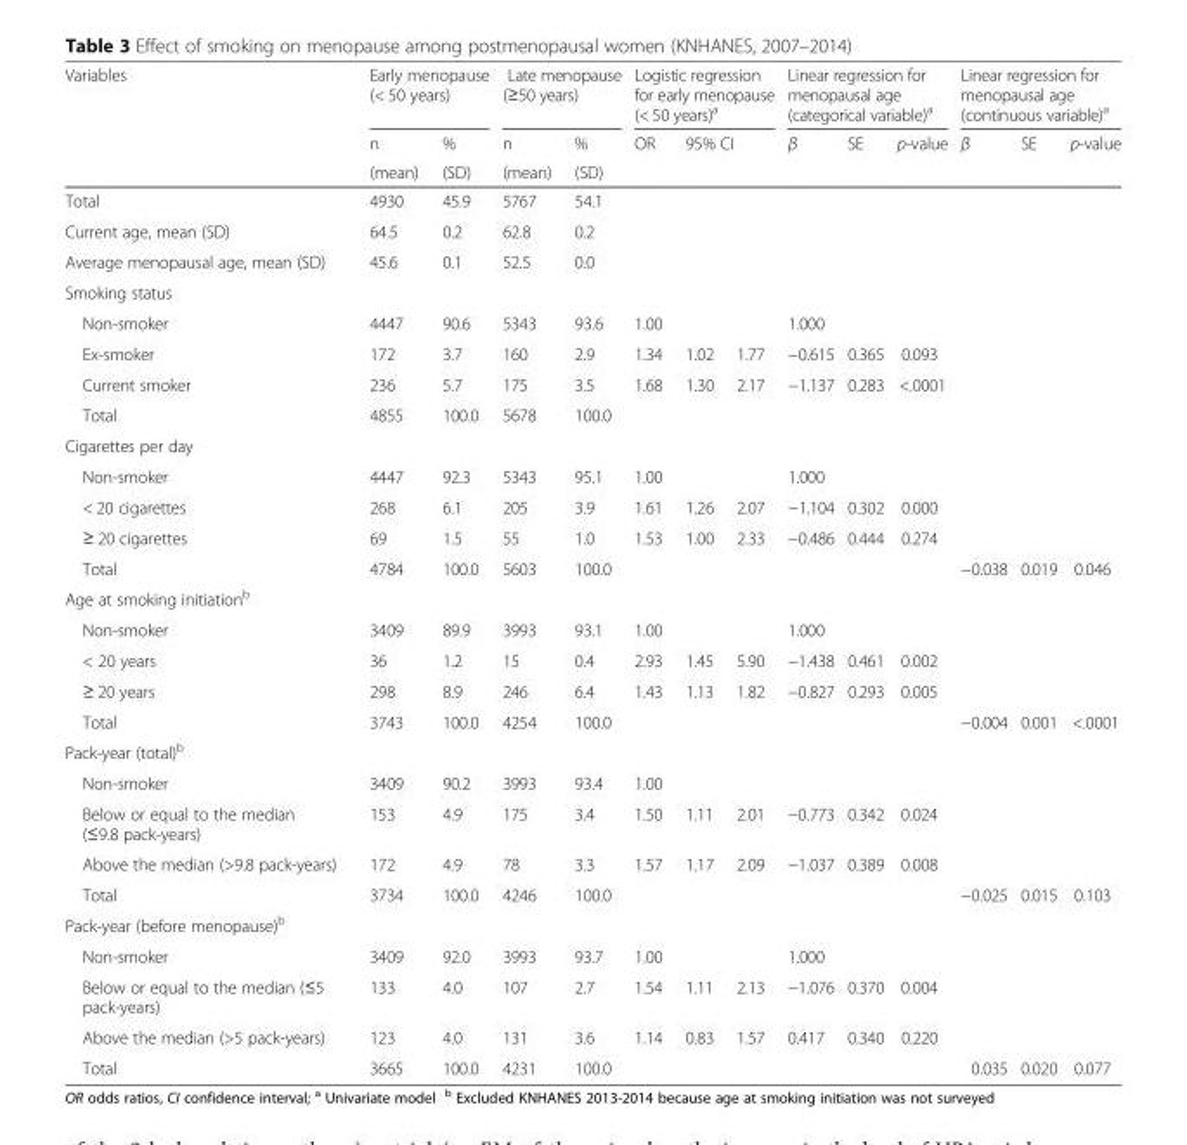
<table><thead><tr><td rowspan="4">Variables Total</td><td colspan="2">Early menopause (&lt; 50 years)</td><td colspan="2">Late menopause (≥50 years)</td><td colspan="3">Logistic regression for early menopause (&lt; 50 years)<sup>a</sup></td><td colspan="3">Linear regression for menopausal age (categorical variable)<sup>a</sup></td><td colspan="3">Linear regression for menopausal age (continuous variable)<sup>a</sup></td></tr><tr><td rowspan="3">n (mean) 4930</td><td rowspan="3">% (SD) 45.9</td><td rowspan="3">n (mean) 5767</td><td rowspan="3">% (SD) 54.1</td><td rowspan="3">OR</td><td rowspan="2" colspan="2">95% CI</td><td rowspan="3">β</td><td rowspan="3">SE</td><td rowspan="3">p-value</td><td rowspan="3">β</td><td rowspan="3">SE</td><td rowspan="3">p-value</td></tr><tr></tr><tr><td></td><td></td></tr></thead><tbody><tr><td>Current age, mean (SD)</td><td>64.5</td><td>0.2</td><td>62.8</td><td>0.2</td><td></td><td></td><td></td><td></td><td></td><td></td><td></td><td></td><td></td></tr><tr><td>Average menopausal age, mean (SD)</td><td>45.6</td><td>0.1</td><td>52.5</td><td>0.0</td><td></td><td></td><td></td><td></td><td></td><td></td><td></td><td></td><td></td></tr><tr><td colspan="14">Smoking status</td></tr><tr><td>Non-smoker</td><td>4447</td><td>90.6</td><td>5343</td><td>93.6</td><td>1.00</td><td></td><td></td><td>1.000</td><td></td><td></td><td></td><td></td><td></td></tr><tr><td>Ex-smoker</td><td>172</td><td>3.7</td><td>160</td><td>2.9</td><td>1.34</td><td>1.02</td><td>1.77</td><td>−0.615</td><td>0.365</td><td>0.093</td><td></td><td></td><td></td></tr><tr><td>Current smoker</td><td>236</td><td>5.7</td><td>175</td><td>3.5</td><td>1.68</td><td>1.30</td><td>2.17</td><td>−1.137</td><td>0.283</td><td>&lt;.0001</td><td></td><td></td><td></td></tr><tr><td>Total</td><td>4855</td><td>100.0</td><td>5678</td><td>100.0</td><td></td><td></td><td></td><td></td><td></td><td></td><td></td><td></td><td></td></tr><tr><td colspan="14">Cigarettes per day</td></tr><tr><td>Non-smoker</td><td>4447</td><td>92.3</td><td>5343</td><td>95.1</td><td>1.00</td><td></td><td></td><td>1.000</td><td></td><td></td><td></td><td></td><td></td></tr><tr><td>&lt; 20 cigarettes</td><td>268</td><td>6.1</td><td>205</td><td>3.9</td><td>1.61</td><td>1.26</td><td>2.07</td><td>−1.104</td><td>0.302</td><td>0.000</td><td></td><td></td><td></td></tr><tr><td>≥ 20 cigarettes</td><td>69</td><td>1.5</td><td>55</td><td>1.0</td><td>1.53</td><td>1.00</td><td>2.33</td><td>−0.486</td><td>0.444</td><td>0.274</td><td></td><td></td><td></td></tr><tr><td>Total</td><td>4784</td><td>100.0</td><td>5603</td><td>100.0</td><td></td><td></td><td></td><td></td><td></td><td></td><td>−0.038</td><td>0.019</td><td>0.046</td></tr><tr><td colspan="14">Age at smoking initiation<sup>b</sup></td></tr><tr><td>Non-smoker</td><td>3409</td><td>89.9</td><td>3993</td><td>93.1</td><td>1.00</td><td></td><td></td><td>1.000</td><td></td><td></td><td></td><td></td><td></td></tr><tr><td>&lt; 20 years</td><td>36</td><td>1.2</td><td>15</td><td>0.4</td><td>2.93</td><td>1.45</td><td>5.90</td><td>−1.438</td><td>0.461</td><td>0.002</td><td></td><td></td><td></td></tr><tr><td>≥ 20 years</td><td>298</td><td>8.9</td><td>246</td><td>6.4</td><td>1.43</td><td>1.13</td><td>1.82</td><td>−0.827</td><td>0.293</td><td>0.005</td><td></td><td></td><td></td></tr><tr><td>Total</td><td>3743</td><td>100.0</td><td>4254</td><td>100.0</td><td></td><td></td><td></td><td></td><td></td><td></td><td>−0.004</td><td>0.001</td><td>&lt;.0001</td></tr><tr><td colspan="14">Pack-year (total)<sup>b</sup></td></tr><tr><td>Non-smoker</td><td>3409</td><td>90.2</td><td>3993</td><td>93.4</td><td>1.00</td><td></td><td></td><td></td><td></td><td></td><td></td><td></td><td></td></tr><tr><td>Below or equal to the median (≤9.8 pack-years)</td><td>153</td><td>4.9</td><td>175</td><td>3.4</td><td>1.50</td><td>1.11</td><td>2.01</td><td>−0.773</td><td>0.342</td><td>0.024</td><td></td><td></td><td></td></tr><tr><td>Above the median (&gt;9.8 pack-years)</td><td>172</td><td>4.9</td><td>78</td><td>3.3</td><td>1.57</td><td>1.17</td><td>2.09</td><td>−1.037</td><td>0.389</td><td>0.008</td><td></td><td></td><td></td></tr><tr><td>Total</td><td>3734</td><td>100.0</td><td>4246</td><td>100.0</td><td></td><td></td><td></td><td></td><td></td><td></td><td>−0.025</td><td>0.015</td><td>0.103</td></tr><tr><td colspan="14">Pack-year (before menopause)<sup>b</sup></td></tr><tr><td>Non-smoker</td><td>3409</td><td>92.0</td><td>3993</td><td>93.7</td><td>1.00</td><td></td><td></td><td>1.000</td><td></td><td></td><td></td><td></td><td></td></tr><tr><td>Below or equal to the median (≤5 pack-years)</td><td>133</td><td>4.0</td><td>107</td><td>2.7</td><td>1.54</td><td>1.11</td><td>2.13</td><td>−1.076</td><td>0.370</td><td>0.004</td><td></td><td></td><td></td></tr><tr><td>Above the median (&gt;5 pack-years)</td><td>123</td><td>4.0</td><td>131</td><td>3.6</td><td>1.14</td><td>0.83</td><td>1.57</td><td>0.417</td><td>0.340</td><td>0.220</td><td></td><td></td><td></td></tr><tr><td>Total</td><td>3665</td><td>100.0</td><td>4231</td><td>100.0</td><td></td><td></td><td></td><td></td><td></td><td></td><td>0.035</td><td>0.020</td><td>0.077</td></tr></tbody></table>